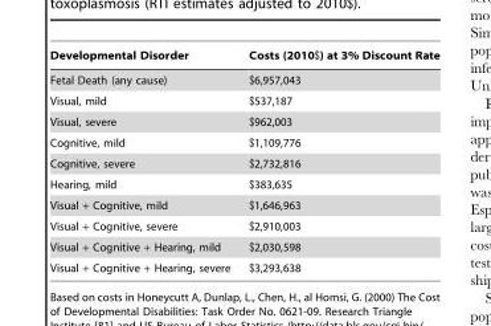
<table><thead><tr><td>Developmental Disorder</td><td>Costs (2010$) at 3% Discount Rate</td></tr></thead><tbody><tr><td>Fetal Death (any cause)</td><td>$6,957,043</td></tr><tr><td>Visual, mild</td><td>$537,187</td></tr><tr><td>Visual, severe</td><td>$962,003</td></tr><tr><td>Cognitive, mild</td><td>$1,109,776</td></tr><tr><td>Cognitive, severe</td><td>$2,732,816</td></tr><tr><td>Hearing, mild</td><td>$383,635</td></tr><tr><td>Visual + Cognitive, mild</td><td>$1,646,963</td></tr><tr><td>Visual + Cognitive, severe</td><td>$2,910,003</td></tr><tr><td>Visual + Cognitive + Hearing, mild</td><td>$2,030,598</td></tr><tr><td>Visual + Cognitive + Hearing, severe</td><td>$3,293,638</td></tr></tbody></table>